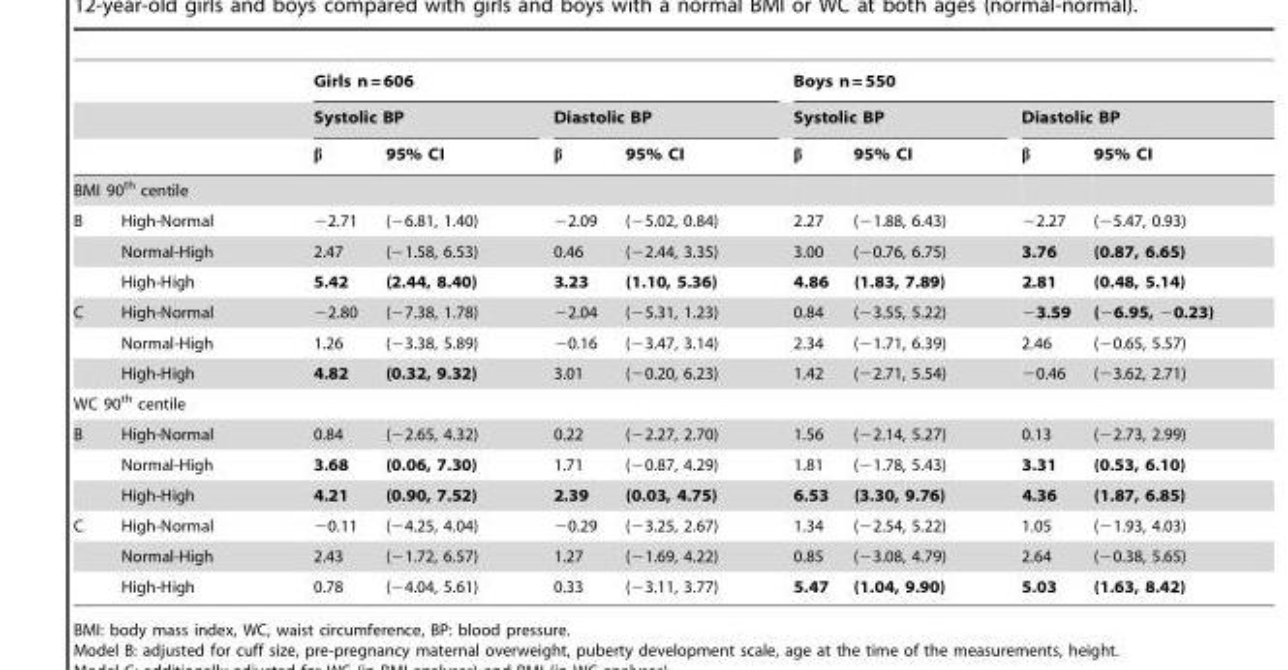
<table><thead><tr><td rowspan="3"></td><td rowspan="3"></td><td colspan="4">Girls n = 606</td><td colspan="4">Boys n = 550</td></tr><tr><td colspan="2">Systolic BP</td><td colspan="2">Diastolic BP</td><td colspan="2">Systolic BP</td><td colspan="2">Diastolic BP</td></tr><tr><td>β</td><td>95% CI</td><td>β</td><td>95% CI</td><td>β</td><td>95% CI</td><td>β</td><td>95% CI</td></tr></thead><tbody><tr><td colspan="10">BMI 90<sup>th</sup> centile</td></tr><tr><td rowspan="3">B</td><td>High-Normal</td><td>−2.71</td><td>(−6.81, 1.40)</td><td>−2.09</td><td>(−5.02, 0.84)</td><td>2.27</td><td>(−1.88, 6.43)</td><td>−2.27</td><td>(−5.47, 0.93)</td></tr><tr><td>Normal-High</td><td>2.47</td><td>(−1.58, 6.53)</td><td>0.46</td><td>(−2.44, 3.35)</td><td>3.00</td><td>(−0.76, 6.75)</td><td>3.76</td><td>(0.87, 6.65)</td></tr><tr><td>High-High</td><td>5.42</td><td>(2.44, 8.40)</td><td>3.23</td><td>(1.10, 5.36)</td><td>4.86</td><td>(1.83, 7.89)</td><td>2.81</td><td>(0.48, 5.14)</td></tr><tr><td rowspan="3">C</td><td>High-Normal</td><td>−2.80</td><td>(−7.38, 1.78)</td><td>−2.04</td><td>(−5.31, 1.23)</td><td>0.84</td><td>(−3.55, 5.22)</td><td>−3.59</td><td>(−6.95, −0.23)</td></tr><tr><td>Normal-High</td><td>1.26</td><td>(−3.38, 5.89)</td><td>−0.16</td><td>(−3.47, 3.14)</td><td>2.34</td><td>(−1.71, 6.39)</td><td>2.46</td><td>(−0.65, 5.57)</td></tr><tr><td>High-High</td><td>4.82</td><td>(0.32, 9.32)</td><td>3.01</td><td>(−0.20, 6.23)</td><td>1.42</td><td>(−2.71, 5.54)</td><td>−0.46</td><td>(−3.62, 2.71)</td></tr><tr><td colspan="10">WC 90<sup>th</sup> centile</td></tr><tr><td rowspan="3">B</td><td>High-Normal</td><td>0.84</td><td>(−2.65, 4.32)</td><td>0.22</td><td>(−2.27, 2.70)</td><td>1.56</td><td>(−2.14, 5.27)</td><td>0.13</td><td>(−2.73, 2.99)</td></tr><tr><td>Normal-High</td><td>3.68</td><td>(0.06, 7.30)</td><td>1.71</td><td>(−0.87, 4.29)</td><td>1.81</td><td>(−1.78, 5.43)</td><td>3.31</td><td>(0.53, 6.10)</td></tr><tr><td>High-High</td><td>4.21</td><td>(0.90, 7.52)</td><td>2.39</td><td>(0.03, 4.75)</td><td>6.53</td><td>(3.30, 9.76)</td><td>4.36</td><td>(1.87, 6.85)</td></tr><tr><td rowspan="3">C</td><td>High-Normal</td><td>−0.11</td><td>(−4.25, 4.04)</td><td>−0.29</td><td>(−3.25, 2.67)</td><td>1.34</td><td>(−2.54, 5.22)</td><td>1.05</td><td>(−1.93, 4.03)</td></tr><tr><td>Normal-High</td><td>2.43</td><td>(−1.72, 6.57)</td><td>1.27</td><td>(−1.69, 4.22)</td><td>0.85</td><td>(−3.08, 4.79)</td><td>2.64</td><td>(−0.38, 5.65)</td></tr><tr><td>High-High</td><td>0.78</td><td>(−4.04, 5.61)</td><td>0.33</td><td>(−3.11, 3.77)</td><td>5.47</td><td>(1.04, 9.90)</td><td>5.03</td><td>(1.63, 8.42)</td></tr></tbody></table>